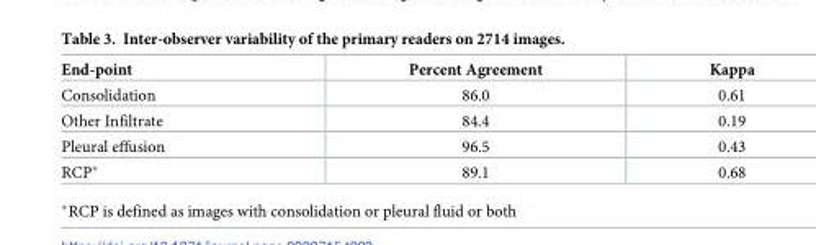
<table><thead><tr><td>End-point</td><td>Percent Agreement</td><td>Kappa</td></tr></thead><tbody><tr><td>Consolidation</td><td>86.0</td><td>0.61</td></tr><tr><td>Other Infiltrate</td><td>84.4</td><td>0.19</td></tr><tr><td>Pleural effusion</td><td>96.5</td><td>0.43</td></tr><tr><td>RCP*</td><td>89.1</td><td>0.68</td></tr></tbody></table>